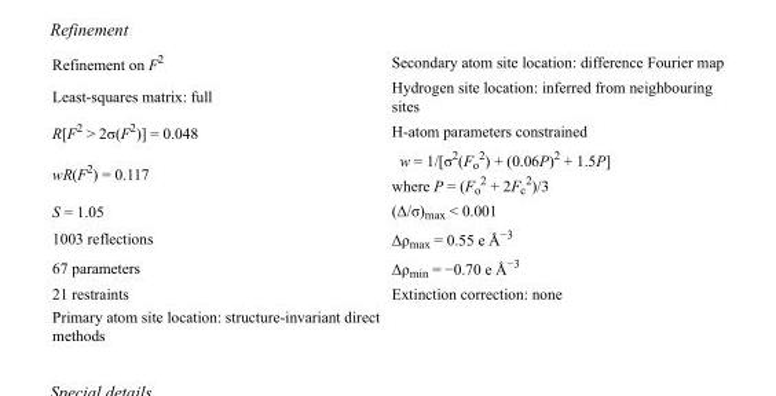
<table><tbody><tr><td>Refinement on F<sup>2</sup></td><td>Secondary atom site location: difference Fourier map</td></tr><tr><td>Least-squares matrix: full</td><td>Hydrogen site location: inferred from neighbouring sites</td></tr><tr><td>R[F<sup>2</sup> &gt; 2σ(F<sup>2</sup>)] = 0.048</td><td>H-atom parameters constrained</td></tr><tr><td>wR(F<sup>2</sup>) = 0.117</td><td>w = 1/[σ<sup>2</sup>(F<sub>o</sub> <sup>2</sup>) + (0.06P)<sup>2</sup> + 1.5P] where P = (F<sub>o</sub> <sup>2</sup> + 2F<sub>c</sub> <sup>2</sup>)/3</td></tr><tr><td>S = 1.05</td><td>(Δ/σ)<sub>max</sub> &lt; 0.001</td></tr><tr><td>1003 reflections</td><td>Δρ<sub>max</sub> = 0.55 e Å<sup>−3</sup></td></tr><tr><td>67 parameters</td><td>Δρ<sub>min</sub> = −0.70 e Å<sup>−3</sup></td></tr><tr><td>21 restraints</td><td>Extinction correction: none</td></tr><tr><td>Primary atom site location: structure-invariant direct methods</td><td></td></tr></tbody></table>